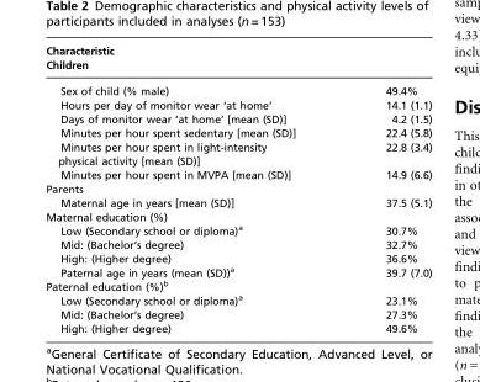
<table><thead><tr><td>Characteristic</td><td></td></tr><tr><td colspan="2">Children</td></tr></thead><tbody><tr><td>Sex of child (% male)</td><td>49.4%</td></tr><tr><td>Hours per day of monitor wear ‘at home’</td><td>14.1 (1.1)</td></tr><tr><td>Days of monitor wear ‘at home’ [mean (SD)]</td><td>4.2 (1.5)</td></tr><tr><td>Minutes per hour spent sedentary [mean (SD)]</td><td>22.4 (5.8)</td></tr><tr><td>Minutes per hour spent in light-intensity physical activity [mean (SD)]</td><td>22.8 (3.4)</td></tr><tr><td>Minutes per hour spent in MVPA [mean (SD)]</td><td>14.9 (6.6)</td></tr><tr><td colspan="2">Parents</td></tr><tr><td>Maternal age in years [mean (SD)]</td><td>37.5 (5.1)</td></tr><tr><td colspan="2">Maternal education (%)</td></tr><tr><td>Low (Secondary school or diploma)<sup>a</sup></td><td>30.7%</td></tr><tr><td>Mid: (Bachelor’s degree)</td><td>32.7%</td></tr><tr><td>High: (Higher degree)</td><td>36.6%</td></tr><tr><td>Paternal age in years (mean (SD))<sup>a</sup></td><td>39.7 (7.0)</td></tr><tr><td colspan="2">Paternal education (%)<sup>b</sup></td></tr><tr><td>Low (Secondary school or diploma)<sup>a</sup></td><td>23.1%</td></tr><tr><td>Mid: (Bachelor’s degree)</td><td>27.3%</td></tr><tr><td>High: (Higher degree)</td><td>49.6%</td></tr></tbody></table>